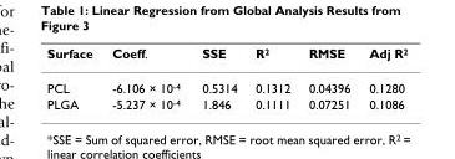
<table><thead><tr><td>Surface</td><td>Coeff.</td><td>SSE</td><td>R<sup>2</sup></td><td>RMSE</td><td>Adj R<sup>2</sup></td></tr></thead><tbody><tr><td>PCL</td><td>-6.106 × 10<sup>-4</sup></td><td>0.5314</td><td>0.1312</td><td>0.04396</td><td>0.1280</td></tr><tr><td>PLGA</td><td>-5.237 × 10<sup>-4</sup></td><td>1.846</td><td>0.1111</td><td>0.07251</td><td>0.1086</td></tr></tbody></table>